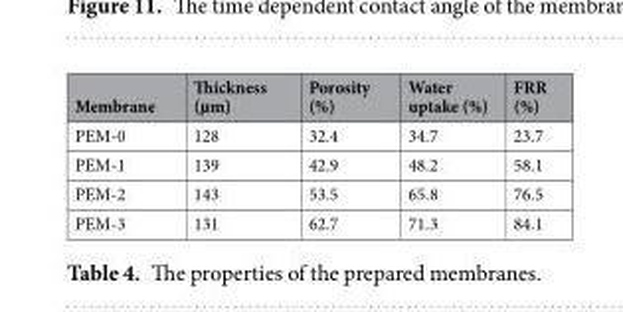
<table><thead><tr><td>Membrane</td><td>Thickness (µm)</td><td>Porosity (%)</td><td>Water uptake (%)</td><td>FRR (%)</td></tr></thead><tbody><tr><td>PEM-0</td><td>128</td><td>32.4</td><td>34.7</td><td>23.7</td></tr><tr><td>PEM-1</td><td>139</td><td>42.9</td><td>48.2</td><td>58.1</td></tr><tr><td>PEM-2</td><td>143</td><td>53.5</td><td>65.8</td><td>76.5</td></tr><tr><td>PEM-3</td><td>131</td><td>62.7</td><td>71.3</td><td>84.1</td></tr></tbody></table>